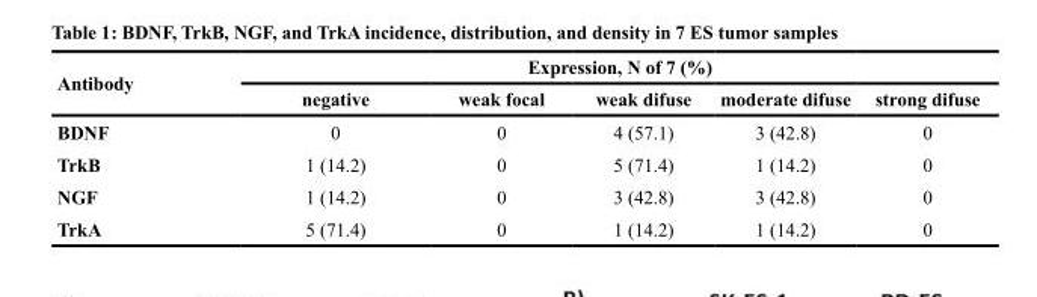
<table><thead><tr><td rowspan="2">Antibody</td><td colspan="5">Expression, N of 7 (%)</td></tr><tr><td>negative</td><td>weak focal</td><td>weak difuse</td><td>moderate difuse</td><td>strong difuse</td></tr></thead><tbody><tr><td>BDNF</td><td>0</td><td>0</td><td>4 (57.1)</td><td>3 (42.8)</td><td>0</td></tr><tr><td>TrkB</td><td>1 (14.2)</td><td>0</td><td>5 (71.4)</td><td>1 (14.2)</td><td>0</td></tr><tr><td>NGF</td><td>1 (14.2)</td><td>0</td><td>3 (42.8)</td><td>3 (42.8)</td><td>0</td></tr><tr><td>TrkA</td><td>5 (71.4)</td><td>0</td><td>1 (14.2)</td><td>1 (14.2)</td><td>0</td></tr></tbody></table>